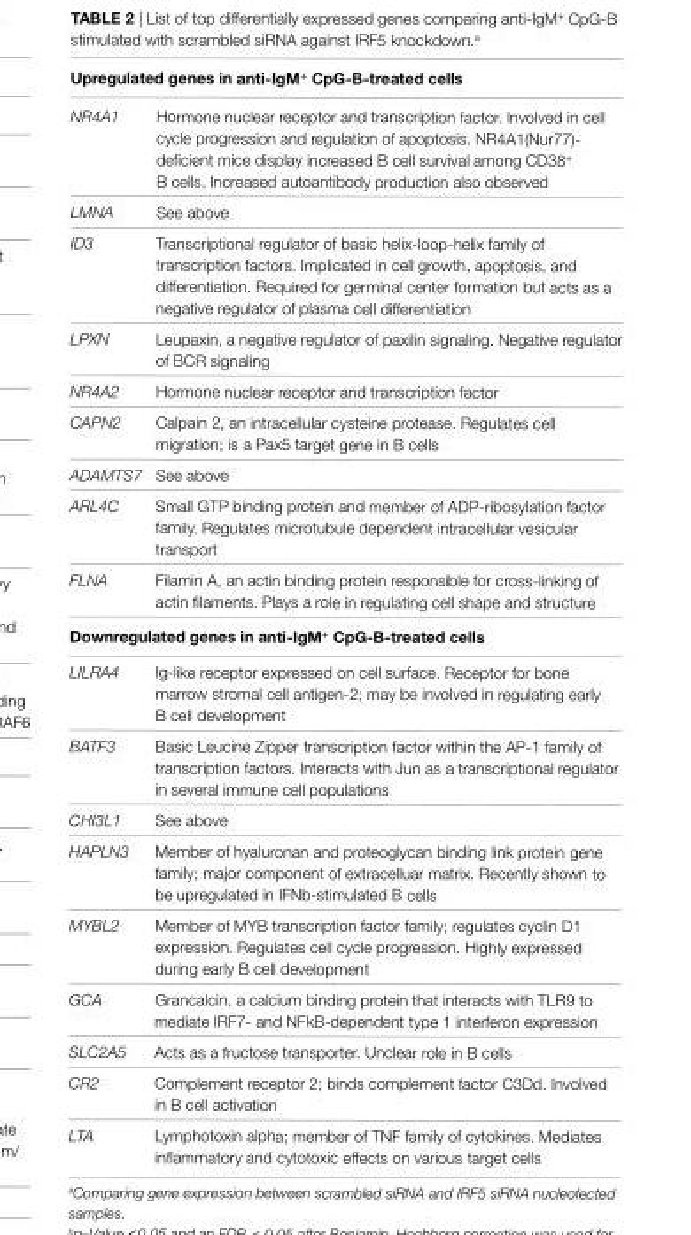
<table><thead><tr><td colspan="2">Upregulated genes in anti-igM<sup>+</sup> cpg-B-treated cells</td></tr><tr><td>NR4A1</td><td>Hormone nuclear receptor and transcription factor. Involved in cell cycle progression and regulation of apoptosis. NR4A1(Nur77)- deficient mice display increased B cell survival among CD38<sup>+</sup> B cells. Increased autoantibody production also observed</td></tr></thead><tbody><tr><td>LMNA</td><td>See above</td></tr><tr><td>ID3</td><td>Transcriptional regulator of basic helix-loop-helix family of transcription factors. Implicated in cell growth, apoptosis, and differentiation. Required for germinal center formation but acts as a negative regulator of plasma cell differentiation</td></tr><tr><td>LPXN</td><td>Leupaxin, a negative regulator of paxilin signaling. Negative regulator of BCR signaling</td></tr><tr><td>NR4A2</td><td>Hormone nuclear receptor and transcription factor</td></tr><tr><td>CAPN2</td><td>Calpain 2, an intracellular cysteine protease. Regulates cell migration; is a Pax5 target gene in B cells</td></tr><tr><td>ADAMTS7</td><td>See above</td></tr><tr><td>ARL4C</td><td>Small GTP binding protein and member of ADP-ribosylation factor family. Regulates microtubule dependent intracellular vesicular transport</td></tr><tr><td>FLNA</td><td>Filamin A, an actin binding protein responsible for cross-linking of actin filaments. Plays a role in regulating cell shape and structure</td></tr><tr><td colspan="2">Downregulated genes in anti-igM<sup>+</sup> cpg-B-treated cells</td></tr><tr><td>LILRA4</td><td>Ig-like receptor expressed on cell surface. Receptor for bone marrow stromal cell antigen-2; may be involved in regulating early B cell development</td></tr><tr><td>BATF3</td><td>Basic Leucine Zipper transcription factor within the AP-1 family of transcription factors. Interacts with Jun as a transcriptional regulator in several immune cell populations</td></tr><tr><td>CHI3L1</td><td>See above</td></tr><tr><td>HAPLN3</td><td>Member of hyaluronan and proteoglycan binding link protein gene family; major component of extracelluar matrix. Recently shown to be upregulated in IFNb-stimulated B cells</td></tr><tr><td>MYBL2</td><td>Member of MYB transcription factor family; regulates cyclin D1 expression. Regulates cell cycle progression. Highly expressed during early B cell development</td></tr><tr><td>GCA</td><td>Grancalcin, a calcium binding protein that interacts with TLR9 to mediate IRF7- and NFkB-dependent type 1 interferon expression</td></tr><tr><td>SLC2A5</td><td>Acts as a fructose transporter. Unclear role in B cells</td></tr><tr><td>CR2</td><td>Complement receptor 2; binds complement factor C3Dd. Involved in B cell activation</td></tr><tr><td>LTA</td><td>Lymphotoxin alpha; member of TNF family of cytokines. Mediates inflammatory and cytotoxic effects on various target cells</td></tr></tbody></table>